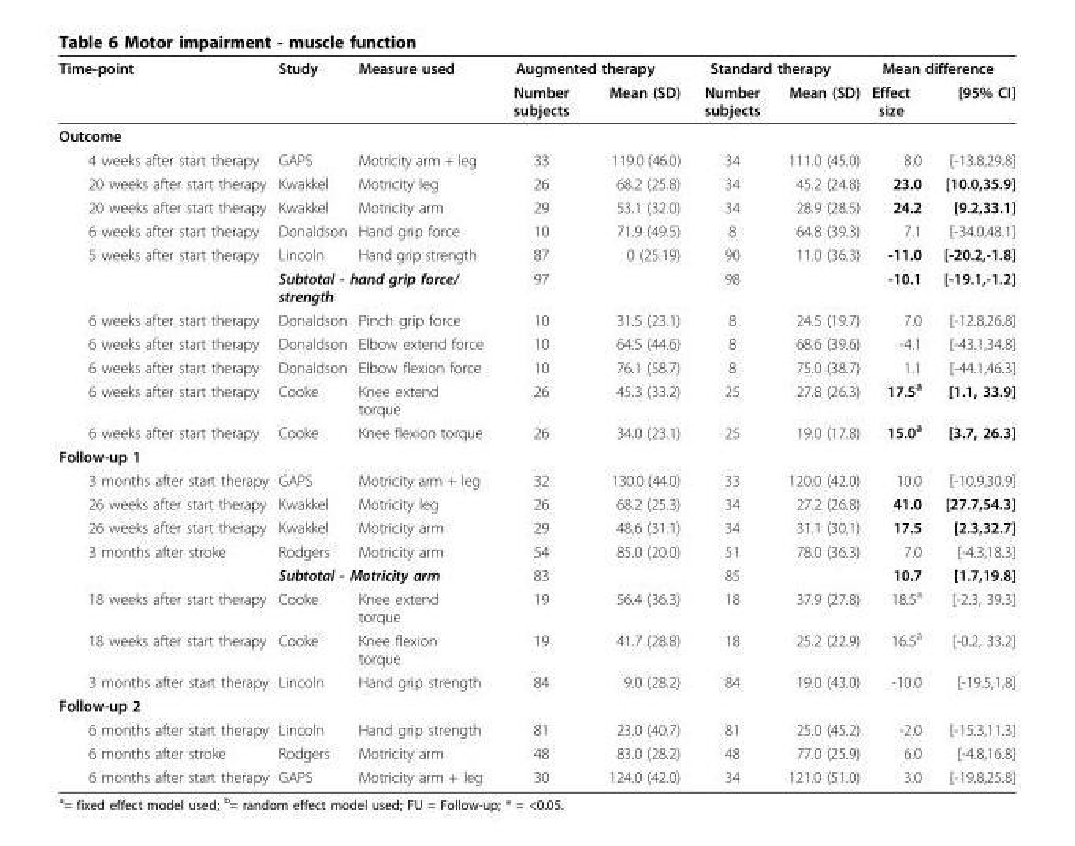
<table><thead><tr><td rowspan="2">Time-point</td><td rowspan="2">Study</td><td rowspan="2">Measure used</td><td colspan="2">Augmented therapy</td><td colspan="2">Standard therapy</td><td colspan="2">Mean difference</td></tr><tr><td>Number subjects</td><td>Mean (SD)</td><td>Number subjects</td><td>Mean (SD)</td><td>Effect size</td><td>[95% CI]</td></tr></thead><tbody><tr><td colspan="9">Outcome</td></tr><tr><td>4 weeks after start therapy</td><td>GAPS</td><td>Motricity arm + leg</td><td>33</td><td>119.0 (46.0)</td><td>34</td><td>111.0 (45.0)</td><td>8.0</td><td>[-13.8,29.8]</td></tr><tr><td>20 weeks after start therapy</td><td>Kwakkel</td><td>Motricity leg</td><td>26</td><td>68.2 (25.8)</td><td>34</td><td>45.2 (24.8)</td><td>23.0</td><td>[10.0,35.9]</td></tr><tr><td>20 weeks after start therapy</td><td>Kwakkel</td><td>Motricity arm</td><td>29</td><td>53.1 (32.0)</td><td>34</td><td>28.9 (28.5)</td><td>24.2</td><td>[9.2,33.1]</td></tr><tr><td>6 weeks after start therapy</td><td>Donaldson</td><td>Hand grip force</td><td>10</td><td>71.9 (49.5)</td><td>8</td><td>64.8 (39.3)</td><td>7.1</td><td>[-34.0,48.1]</td></tr><tr><td rowspan="2">5 weeks after start therapy</td><td>Lincoln</td><td>Hand grip strength</td><td>87</td><td>0 (25.19)</td><td>90</td><td>11.0 (36.3)</td><td>-11.0</td><td>[-20.2,-1.8]</td></tr><tr><td colspan="2">Subtotal - hand grip force/ strength</td><td>97</td><td></td><td>98</td><td></td><td>-10.1</td><td>[-19.1,-1.2]</td></tr><tr><td>6 weeks after start therapy</td><td>Donaldson</td><td>Pinch grip force</td><td>10</td><td>31.5 (23.1)</td><td>8</td><td>24.5 (19.7)</td><td>7.0</td><td>[-12.8,26.8]</td></tr><tr><td>6 weeks after start therapy</td><td>Donaldson</td><td>Elbow extend force</td><td>10</td><td>64.5 (44.6)</td><td>8</td><td>68.6 (39.6)</td><td>-4.1</td><td>[-43.1,34.8]</td></tr><tr><td>6 weeks after start therapy</td><td>Donaldson</td><td>Elbow flexion force</td><td>10</td><td>76.1 (58.7)</td><td>8</td><td>75.0 (38.7)</td><td>1.1</td><td>[-44.1,46.3]</td></tr><tr><td>6 weeks after start therapy</td><td>Cooke</td><td>Knee extend torque</td><td>26</td><td>45.3 (33.2)</td><td>25</td><td>27.8 (26.3)</td><td>17.5<sup>a</sup></td><td>[1.1, 33.9]</td></tr><tr><td>6 weeks after start therapy</td><td>Cooke</td><td>Knee flexion torque</td><td>26</td><td>34.0 (23.1)</td><td>25</td><td>19.0 (17.8)</td><td>15.0<sup>a</sup></td><td>[3.7, 26.3]</td></tr><tr><td colspan="9">Follow-up 1</td></tr><tr><td>3 months after start therapy</td><td>GAPS</td><td>Motricity arm + leg</td><td>32</td><td>130.0 (44.0)</td><td>33</td><td>120.0 (42.0)</td><td>10.0</td><td>[-10.9,30.9]</td></tr><tr><td>26 weeks after start therapy</td><td>Kwakkel</td><td>Motricity leg</td><td>26</td><td>68.2 (25.3)</td><td>34</td><td>27.2 (26.8)</td><td>41.0</td><td>[27.7,54.3]</td></tr><tr><td>26 weeks after start therapy</td><td>Kwakkel</td><td>Motricity arm</td><td>29</td><td>48.6 (31.1)</td><td>34</td><td>31.1 (30.1)</td><td>17.5</td><td>[2.3,32.7]</td></tr><tr><td rowspan="2">3 months after stroke</td><td>Rodgers</td><td>Motricity arm</td><td>54</td><td>85.0 (20.0)</td><td>51</td><td>78.0 (36.3)</td><td>7.0</td><td>[-4.3,18.3]</td></tr><tr><td colspan="2">Subtotal - Motricity arm</td><td>83</td><td></td><td>85</td><td></td><td>10.7</td><td>[1.7,19.8]</td></tr><tr><td>18 weeks after start therapy</td><td>Cooke</td><td>Knee extend torque</td><td>19</td><td>56.4 (36.3)</td><td>18</td><td>37.9 (27.8)</td><td>18.5<sup>a</sup></td><td>[-2.3, 39.3]</td></tr><tr><td>18 weeks after start therapy</td><td>Cooke</td><td>Knee flexion torque</td><td>19</td><td>41.7 (28.8)</td><td>18</td><td>25.2 (22.9)</td><td>16.5<sup>a</sup></td><td>[-0.2, 33.2]</td></tr><tr><td>3 months after start therapy</td><td>Lincoln</td><td>Hand grip strength</td><td>84</td><td>9.0 (28.2)</td><td>84</td><td>19.0 (43.0)</td><td>-10.0</td><td>[-19.5,1.8]</td></tr><tr><td colspan="9">Follow-up 2</td></tr><tr><td>6 months after start therapy</td><td>Lincoln</td><td>Hand grip strength</td><td>81</td><td>23.0 (40.7)</td><td>81</td><td>25.0 (45.2)</td><td>-2.0</td><td>[-15.3,11.3]</td></tr><tr><td>6 months after stroke</td><td>Rodgers</td><td>Motricity arm</td><td>48</td><td>83.0 (28.2)</td><td>48</td><td>77.0 (25.9)</td><td>6.0</td><td>[-4.8,16.8]</td></tr><tr><td>6 months after start therapy</td><td>GAPS</td><td>Motricity arm + leg</td><td>30</td><td>124.0 (42.0)</td><td>34</td><td>121.0 (51.0)</td><td>3.0</td><td>[-19.8,25.8]</td></tr></tbody></table>